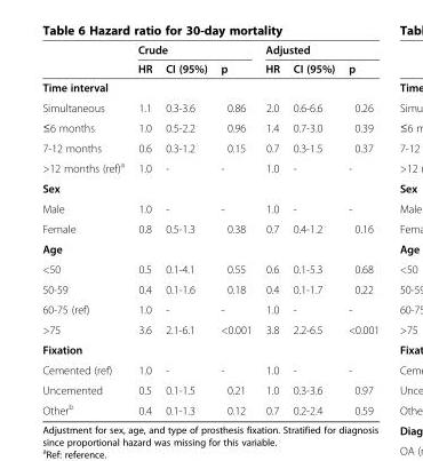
<table><thead><tr><td rowspan="2"></td><td colspan="3">Crude</td><td colspan="3">Adjusted</td></tr><tr><td>HR</td><td>CI (95%)</td><td>p</td><td>HR</td><td>CI (95%)</td><td>p</td></tr></thead><tbody><tr><td colspan="7">Time interval</td></tr><tr><td>Simultaneous</td><td>1.1</td><td>0.3-3.6</td><td>0.86</td><td>2.0</td><td>0.6-6.6</td><td>0.26</td></tr><tr><td>≤6 months</td><td>1.0</td><td>0.5-2.2</td><td>0.96</td><td>1.4</td><td>0.7-3.0</td><td>0.39</td></tr><tr><td>7-12 months</td><td>0.6</td><td>0.3-1.2</td><td>0.15</td><td>0.7</td><td>0.3-1.5</td><td>0.37</td></tr><tr><td>&gt;12 months (ref)<sup>a</sup></td><td>1.0</td><td>-</td><td>-</td><td>1.0</td><td>-</td><td>-</td></tr><tr><td colspan="7">Sex</td></tr><tr><td>Male</td><td>1.0</td><td>-</td><td>-</td><td>1.0</td><td>-</td><td>-</td></tr><tr><td>Female</td><td>0.8</td><td>0.5-1.3</td><td>0.38</td><td>0.7</td><td>0.4-1.2</td><td>0.16</td></tr><tr><td colspan="7">Age</td></tr><tr><td>&lt;50</td><td>0.5</td><td>0.1-4.1</td><td>0.55</td><td>0.6</td><td>0.1-5.3</td><td>0.68</td></tr><tr><td>50-59</td><td>0.4</td><td>0.1-1.6</td><td>0.18</td><td>0.4</td><td>0.1-1.7</td><td>0.22</td></tr><tr><td>60-75 (ref)</td><td>1.0</td><td>-</td><td>-</td><td>1.0</td><td>-</td><td>-</td></tr><tr><td>&gt;75</td><td>3.6</td><td>2.1-6.1</td><td>&lt;0.001</td><td>3.8</td><td>2.2-6.5</td><td>&lt;0.001</td></tr><tr><td colspan="7">Fixation</td></tr><tr><td>Cemented (ref)</td><td>1.0</td><td>-</td><td>-</td><td>1.0</td><td>-</td><td>-</td></tr><tr><td>Uncemented</td><td>0.5</td><td>0.1-1.5</td><td>0.21</td><td>1.0</td><td>0.3-3.6</td><td>0.97</td></tr><tr><td>Other<sup>b</sup></td><td>0.4</td><td>0.1-1.3</td><td>0.12</td><td>0.7</td><td>0.2-2.4</td><td>0.59</td></tr></tbody></table>